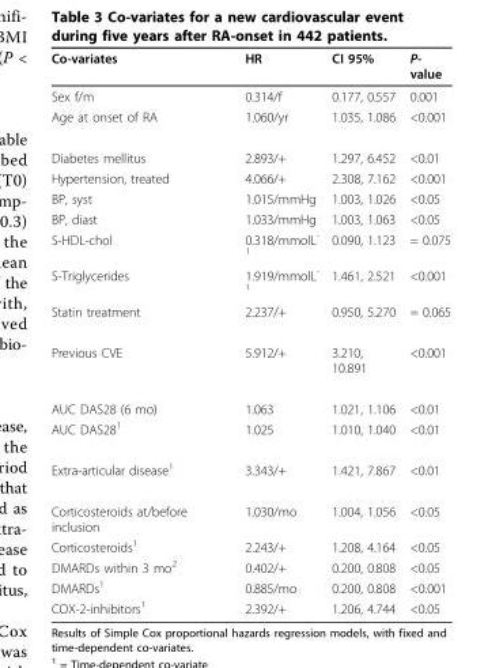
<table><thead><tr><td>Co-variates</td><td>HR</td><td>CI 95%</td><td>P- value</td></tr></thead><tbody><tr><td>Sex f/m</td><td>0.314/f</td><td>0.177, 0.557</td><td>0.001</td></tr><tr><td>Age at onset of RA</td><td>1.060/yr</td><td>1.035, 1.086</td><td>&lt;0.001</td></tr><tr><td>Diabetes mellitus</td><td>2.893/+</td><td>1.297, 6.452</td><td>&lt;0.01</td></tr><tr><td>Hypertension, treated</td><td>4.066/+</td><td>2.308, 7.162</td><td>&lt;0.001</td></tr><tr><td>BP, syst</td><td>1.015/mmHg</td><td>1.003, 1.026</td><td>&lt;0.05</td></tr><tr><td>BP, diast</td><td>1.033/mmHg</td><td>1.003, 1.063</td><td>&lt;0.05</td></tr><tr><td>S-HDL-chol</td><td>0.318/mmolL<sup>- 1</sup></td><td>0.090, 1.123</td><td>= 0.075</td></tr><tr><td>S-Triglycerides</td><td>1.919/mmolL<sup>- 1</sup></td><td>1.461, 2.521</td><td>&lt;0.001</td></tr><tr><td>Statin treatment</td><td>2.237/+</td><td>0.950, 5.270</td><td>= 0.065</td></tr><tr><td>Previous CVE</td><td>5.912/+</td><td>3.210, 10.891</td><td>&lt;0.001</td></tr><tr><td>AUC DAS28 (6 mo)</td><td>1.063</td><td>1.021, 1.106</td><td>&lt;0.01</td></tr><tr><td>AUC DAS28<sup>1</sup></td><td>1.025</td><td>1.010, 1.040</td><td>&lt;0.01</td></tr><tr><td>Extra-articular disease<sup>1</sup></td><td>3.343/+</td><td>1.421, 7.867</td><td>&lt;0.01</td></tr><tr><td>Corticosteroids at/before inclusion</td><td>1.030/mo</td><td>1.004, 1.056</td><td>&lt;0.05</td></tr><tr><td>Corticosteroids<sup>1</sup></td><td>2.243/+</td><td>1.208, 4.164</td><td>&lt;0.05</td></tr><tr><td>DMARDs within 3 mo<sup>2</sup></td><td>0.402/+</td><td>0.200, 0.808</td><td>&lt;0.05</td></tr><tr><td>DMARDs<sup>1</sup></td><td>0.885/mo</td><td>0.200, 0.808</td><td>&lt;0.001</td></tr><tr><td>COX-2-inhibitors<sup>1</sup></td><td>2.392/+</td><td>1.206, 4.744</td><td>&lt;0.05</td></tr></tbody></table>